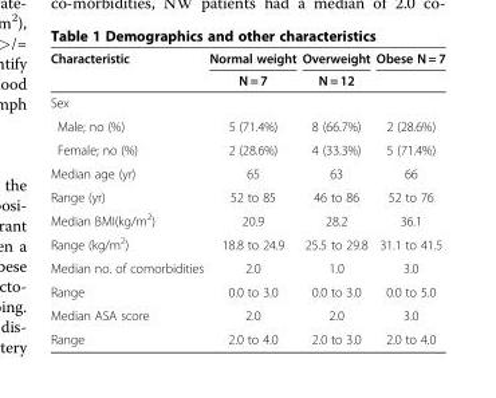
<table><thead><tr><td rowspan="2">Characteristic</td><td rowspan="2">Normal weight N = 7</td><td rowspan="2">Overweight N = 12</td><td rowspan="2">Obese N = 7</td></tr><tr></tr></thead><tbody><tr><td colspan="4">Sex</td></tr><tr><td>Male; no (%)</td><td>5 (71.4%)</td><td>8 (66.7%)</td><td>2 (28.6%)</td></tr><tr><td>Female; no (%)</td><td>2 (28.6%)</td><td>4 (33.3%)</td><td>5 (71.4%)</td></tr><tr><td>Median age (yr)</td><td>65</td><td>63</td><td>66</td></tr><tr><td>Range (yr)</td><td>52 to 85</td><td>46 to 86</td><td>52 to 76</td></tr><tr><td>Median BMI(kg/m<sup>2</sup>)</td><td>20.9</td><td>28.2</td><td>36.1</td></tr><tr><td>Range (kg/m<sup>2</sup>)</td><td>18.8 to 24.9</td><td>25.5 to 29.8</td><td>31.1 to 41.5</td></tr><tr><td>Median no. of comorbidities</td><td>2.0</td><td>1.0</td><td>3.0</td></tr><tr><td>Range</td><td>0.0 to 3.0</td><td>0.0 to 3.0</td><td>0.0 to 5.0</td></tr><tr><td>Median ASA score</td><td>2.0</td><td>2.0</td><td>3.0</td></tr><tr><td>Range</td><td>2.0 to 4.0</td><td>2.0 to 3.0</td><td>2.0 to 4.0</td></tr></tbody></table>